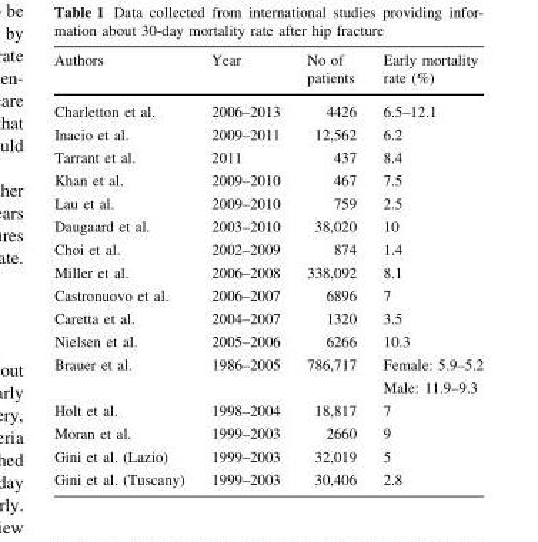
<table><thead><tr><td>Authors</td><td>Year</td><td>No of patients</td><td>Early mortality rate (%)</td></tr></thead><tbody><tr><td>Charletton et al.</td><td>2006–2013</td><td>4426</td><td>6.5–12.1</td></tr><tr><td>Inacio et al.</td><td>2009–2011</td><td>12,562</td><td>6.2</td></tr><tr><td>Tarrant et al.</td><td>2011</td><td>437</td><td>8.4</td></tr><tr><td>Khan et al.</td><td>2009–2010</td><td>467</td><td>7.5</td></tr><tr><td>Lau et al.</td><td>2009–2010</td><td>759</td><td>2.5</td></tr><tr><td>Daugaard et al.</td><td>2003–2010</td><td>38,020</td><td>10</td></tr><tr><td>Choi et al.</td><td>2002–2009</td><td>874</td><td>1.4</td></tr><tr><td>Miller et al.</td><td>2006–2008</td><td>338,092</td><td>8.1</td></tr><tr><td>Castronuovo et al.</td><td>2006–2007</td><td>6896</td><td>7</td></tr><tr><td>Caretta et al.</td><td>2004–2007</td><td>1320</td><td>3.5</td></tr><tr><td>Nielsen et al.</td><td>2005–2006</td><td>6266</td><td>10.3</td></tr><tr><td>Brauer et al.</td><td>1986–2005</td><td>786,717</td><td>Female: 5.9–5.2 Male: 11.9–9.3</td></tr><tr><td>Holt et al.</td><td>1998–2004</td><td>18,817</td><td>7</td></tr><tr><td>Moran et al.</td><td>1999–2003</td><td>2660</td><td>9</td></tr><tr><td>Gini et al. (Lazio)</td><td>1999–2003</td><td>32,019</td><td>5</td></tr><tr><td>Gini et al. (Tuscany)</td><td>1999–2003</td><td>30,406</td><td>2.8</td></tr></tbody></table>